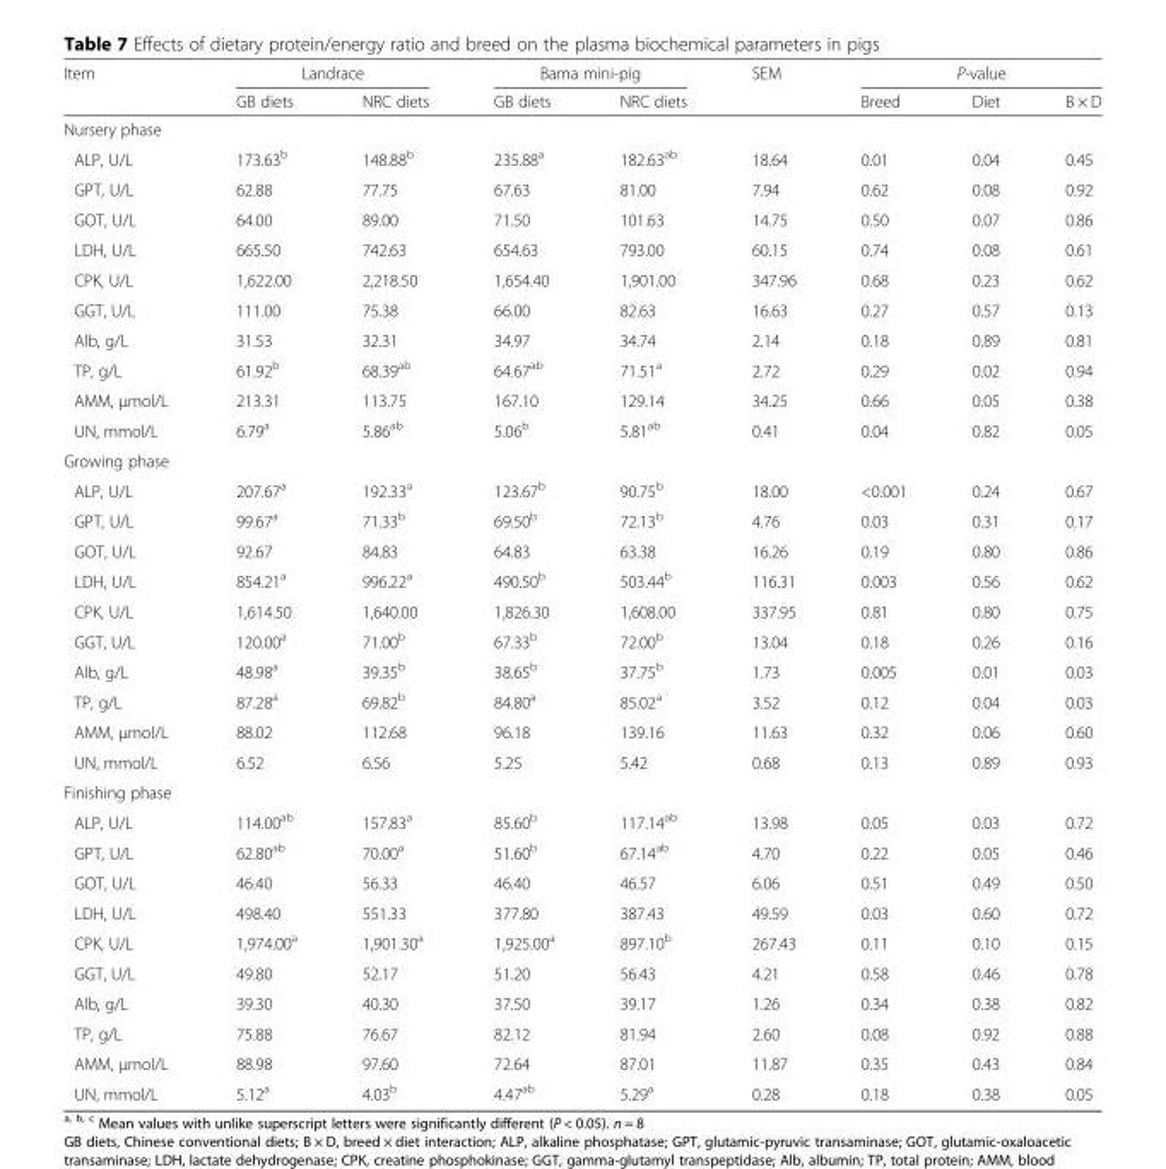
<table><thead><tr><td rowspan="2">Item</td><td colspan="2">Landrace</td><td colspan="2">Bama mini-pig</td><td rowspan="2">SEM</td><td colspan="3">P-value</td></tr><tr><td>GB diets</td><td>NRC diets</td><td>GB diets</td><td>NRC diets</td><td>Breed</td><td>Diet</td><td>B × D</td></tr></thead><tbody><tr><td colspan="9">Nursery phase</td></tr><tr><td>ALP, U/L</td><td>173.63<sup>b</sup></td><td>148.88<sup>b</sup></td><td>235.88<sup>a</sup></td><td>182.63<sup>ab</sup></td><td>18.64</td><td>0.01</td><td>0.04</td><td>0.45</td></tr><tr><td>GPT, U/L</td><td>62.88</td><td>77.75</td><td>67.63</td><td>81.00</td><td>7.94</td><td>0.62</td><td>0.08</td><td>0.92</td></tr><tr><td>GOT, U/L</td><td>64.00</td><td>89.00</td><td>71.50</td><td>101.63</td><td>14.75</td><td>0.50</td><td>0.07</td><td>0.86</td></tr><tr><td>LDH, U/L</td><td>665.50</td><td>742.63</td><td>654.63</td><td>793.00</td><td>60.15</td><td>0.74</td><td>0.08</td><td>0.61</td></tr><tr><td>CPK, U/L</td><td>1,622.00</td><td>2,218.50</td><td>1,654.40</td><td>1,901.00</td><td>347.96</td><td>0.68</td><td>0.23</td><td>0.62</td></tr><tr><td>GGT, U/L</td><td>111.00</td><td>75.38</td><td>66.00</td><td>82.63</td><td>16.63</td><td>0.27</td><td>0.57</td><td>0.13</td></tr><tr><td>Alb, g/L</td><td>31.53</td><td>32.31</td><td>34.97</td><td>34.74</td><td>2.14</td><td>0.18</td><td>0.89</td><td>0.81</td></tr><tr><td>TP, g/L</td><td>61.92<sup>b</sup></td><td>68.39<sup>ab</sup></td><td>64.67<sup>ab</sup></td><td>71.51<sup>a</sup></td><td>2.72</td><td>0.29</td><td>0.02</td><td>0.94</td></tr><tr><td>AMM, μmol/L</td><td>213.31</td><td>113.75</td><td>167.10</td><td>129.14</td><td>34.25</td><td>0.66</td><td>0.05</td><td>0.38</td></tr><tr><td>UN, mmol/L</td><td>6.79<sup>a</sup></td><td>5.86<sup>ab</sup></td><td>5.06<sup>b</sup></td><td>5.81<sup>ab</sup></td><td>0.41</td><td>0.04</td><td>0.82</td><td>0.05</td></tr><tr><td colspan="9">Growing phase</td></tr><tr><td>ALP, U/L</td><td>207.67<sup>a</sup></td><td>192.33<sup>a</sup></td><td>123.67<sup>b</sup></td><td>90.75<sup>b</sup></td><td>18.00</td><td>&lt;0.001</td><td>0.24</td><td>0.67</td></tr><tr><td>GPT, U/L</td><td>99.67<sup>a</sup></td><td>71.33<sup>b</sup></td><td>69.50<sup>b</sup></td><td>72.13<sup>b</sup></td><td>4.76</td><td>0.03</td><td>0.31</td><td>0.17</td></tr><tr><td>GOT, U/L</td><td>92.67</td><td>84.83</td><td>64.83</td><td>63.38</td><td>16.26</td><td>0.19</td><td>0.80</td><td>0.86</td></tr><tr><td>LDH, U/L</td><td>854.21<sup>a</sup></td><td>996.22<sup>a</sup></td><td>490.50<sup>b</sup></td><td>503.44<sup>b</sup></td><td>116.31</td><td>0.003</td><td>0.56</td><td>0.62</td></tr><tr><td>CPK, U/L</td><td>1,614.50</td><td>1,640.00</td><td>1,826.30</td><td>1,608.00</td><td>337.95</td><td>0.81</td><td>0.80</td><td>0.75</td></tr><tr><td>GGT, U/L</td><td>120.00<sup>a</sup></td><td>71.00<sup>b</sup></td><td>67.33<sup>b</sup></td><td>72.00<sup>b</sup></td><td>13.04</td><td>0.18</td><td>0.26</td><td>0.16</td></tr><tr><td>Alb, g/L</td><td>48.98<sup>a</sup></td><td>39.35<sup>b</sup></td><td>38.65<sup>b</sup></td><td>37.75<sup>b</sup></td><td>1.73</td><td>0.005</td><td>0.01</td><td>0.03</td></tr><tr><td>TP, g/L</td><td>87.28<sup>a</sup></td><td>69.82<sup>b</sup></td><td>84.80<sup>a</sup></td><td>85.02<sup>a</sup></td><td>3.52</td><td>0.12</td><td>0.04</td><td>0.03</td></tr><tr><td>AMM, μmol/L</td><td>88.02</td><td>112.68</td><td>96.18</td><td>139.16</td><td>11.63</td><td>0.32</td><td>0.06</td><td>0.60</td></tr><tr><td>UN, mmol/L</td><td>6.52</td><td>6.56</td><td>5.25</td><td>5.42</td><td>0.68</td><td>0.13</td><td>0.89</td><td>0.93</td></tr><tr><td colspan="9">Finishing phase</td></tr><tr><td>ALP, U/L</td><td>114.00<sup>ab</sup></td><td>157.83<sup>a</sup></td><td>85.60<sup>b</sup></td><td>117.14<sup>ab</sup></td><td>13.98</td><td>0.05</td><td>0.03</td><td>0.72</td></tr><tr><td>GPT, U/L</td><td>62.80<sup>ab</sup></td><td>70.00<sup>a</sup></td><td>51.60<sup>b</sup></td><td>67.14<sup>ab</sup></td><td>4.70</td><td>0.22</td><td>0.05</td><td>0.46</td></tr><tr><td>GOT, U/L</td><td>46.40</td><td>56.33</td><td>46.40</td><td>46.57</td><td>6.06</td><td>0.51</td><td>0.49</td><td>0.50</td></tr><tr><td>LDH, U/L</td><td>498.40</td><td>551.33</td><td>377.80</td><td>387.43</td><td>49.59</td><td>0.03</td><td>0.60</td><td>0.72</td></tr><tr><td>CPK, U/L</td><td>1,974.00<sup>a</sup></td><td>1,901.30<sup>a</sup></td><td>1,925.00<sup>a</sup></td><td>897.10<sup>b</sup></td><td>267.43</td><td>0.11</td><td>0.10</td><td>0.15</td></tr><tr><td>GGT, U/L</td><td>49.80</td><td>52.17</td><td>51.20</td><td>56.43</td><td>4.21</td><td>0.58</td><td>0.46</td><td>0.78</td></tr><tr><td>Alb, g/L</td><td>39.30</td><td>40.30</td><td>37.50</td><td>39.17</td><td>1.26</td><td>0.34</td><td>0.38</td><td>0.82</td></tr><tr><td>TP, g/L</td><td>75.88</td><td>76.67</td><td>82.12</td><td>81.94</td><td>2.60</td><td>0.08</td><td>0.92</td><td>0.88</td></tr><tr><td>AMM, μmol/L</td><td>88.98</td><td>97.60</td><td>72.64</td><td>87.01</td><td>11.87</td><td>0.35</td><td>0.43</td><td>0.84</td></tr><tr><td>UN, mmol/L</td><td>5.12<sup>a</sup></td><td>4.03<sup>b</sup></td><td>4.47<sup>ab</sup></td><td>5.29<sup>a</sup></td><td>0.28</td><td>0.18</td><td>0.38</td><td>0.05</td></tr></tbody></table>